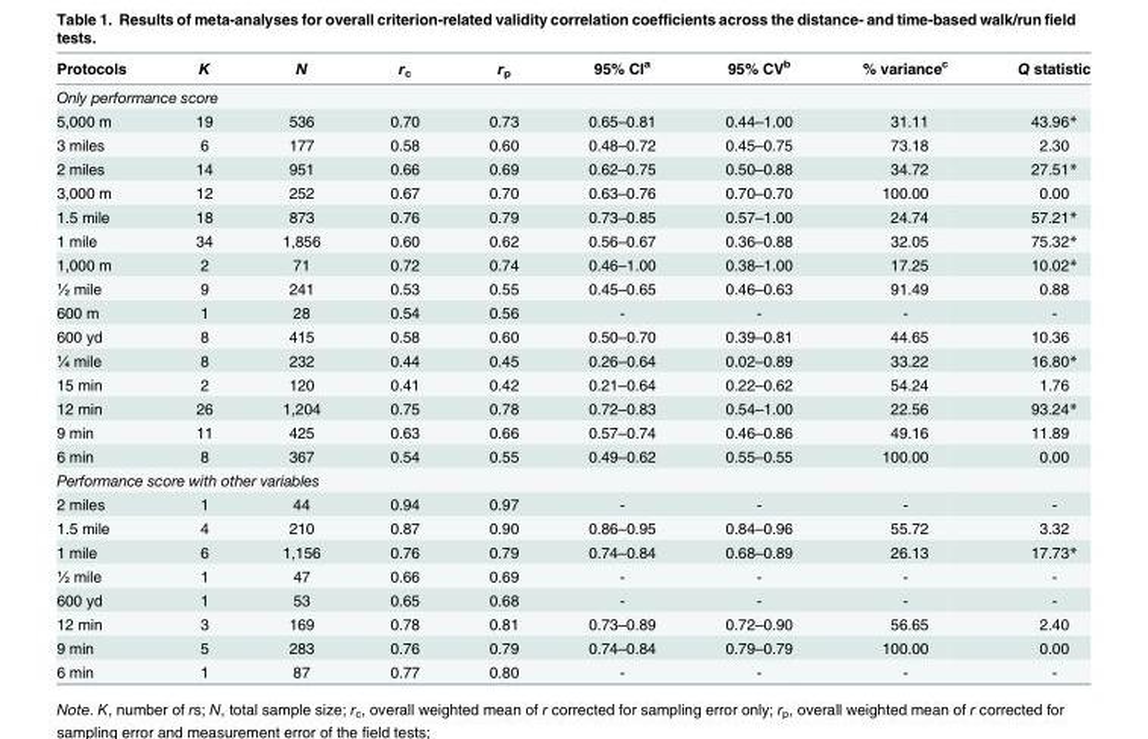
<table><thead><tr><td>Protocols</td><td>K</td><td>N</td><td>r<sub>c</sub></td><td>r<sub>p</sub></td><td>95% CI<sup>a</sup></td><td>95% CV<sup>b</sup></td><td>% variance<sup>c</sup></td><td>Q statistic</td></tr></thead><tbody><tr><td colspan="9">Only performance score</td></tr><tr><td>5,000 m</td><td>19</td><td>536</td><td>0.70</td><td>0.73</td><td>0.65–0.81</td><td>0.44–1.00</td><td>31.11</td><td>43.96*</td></tr><tr><td>3 miles</td><td>6</td><td>177</td><td>0.58</td><td>0.60</td><td>0.48–0.72</td><td>0.45–0.75</td><td>73.18</td><td>2.30</td></tr><tr><td>2 miles</td><td>14</td><td>951</td><td>0.66</td><td>0.69</td><td>0.62–0.75</td><td>0.50–0.88</td><td>34.72</td><td>27.51*</td></tr><tr><td>3,000 m</td><td>12</td><td>252</td><td>0.67</td><td>0.70</td><td>0.63–0.76</td><td>0.70–0.70</td><td>100.00</td><td>0.00</td></tr><tr><td>1.5 mile</td><td>18</td><td>873</td><td>0.76</td><td>0.79</td><td>0.73–0.85</td><td>0.57–1.00</td><td>24.74</td><td>57.21*</td></tr><tr><td>1 mile</td><td>34</td><td>1,856</td><td>0.60</td><td>0.62</td><td>0.56–0.67</td><td>0.36–0.88</td><td>32.05</td><td>75.32*</td></tr><tr><td>1,000 m</td><td>2</td><td>71</td><td>0.72</td><td>0.74</td><td>0.46–1.00</td><td>0.38–1.00</td><td>17.25</td><td>10.02*</td></tr><tr><td>½ mile</td><td>9</td><td>241</td><td>0.53</td><td>0.55</td><td>0.45–0.65</td><td>0.46–0.63</td><td>91.49</td><td>0.88</td></tr><tr><td>600 m</td><td>1</td><td>28</td><td>0.54</td><td>0.56</td><td>-</td><td>-</td><td>-</td><td>-</td></tr><tr><td>600 yd</td><td>8</td><td>415</td><td>0.58</td><td>0.60</td><td>0.50–0.70</td><td>0.39–0.81</td><td>44.65</td><td>10.36</td></tr><tr><td>¼ mile</td><td>8</td><td>232</td><td>0.44</td><td>0.45</td><td>0.26–0.64</td><td>0.02–0.89</td><td>33.22</td><td>16.80*</td></tr><tr><td>15 min</td><td>2</td><td>120</td><td>0.41</td><td>0.42</td><td>0.21–0.64</td><td>0.22–0.62</td><td>54.24</td><td>1.76</td></tr><tr><td>12 min</td><td>26</td><td>1,204</td><td>0.75</td><td>0.78</td><td>0.72–0.83</td><td>0.54–1.00</td><td>22.56</td><td>93.24*</td></tr><tr><td>9 min</td><td>11</td><td>425</td><td>0.63</td><td>0.66</td><td>0.57–0.74</td><td>0.46–0.86</td><td>49.16</td><td>11.89</td></tr><tr><td>6 min</td><td>8</td><td>367</td><td>0.54</td><td>0.55</td><td>0.49–0.62</td><td>0.55–0.55</td><td>100.00</td><td>0.00</td></tr><tr><td colspan="9">Performance score with other variables</td></tr><tr><td>2 miles</td><td>1</td><td>44</td><td>0.94</td><td>0.97</td><td>-</td><td>-</td><td>-</td><td>-</td></tr><tr><td>1.5 mile</td><td>4</td><td>210</td><td>0.87</td><td>0.90</td><td>0.86–0.95</td><td>0.84–0.96</td><td>55.72</td><td>3.32</td></tr><tr><td>1 mile</td><td>6</td><td>1,156</td><td>0.76</td><td>0.79</td><td>0.74–0.84</td><td>0.68–0.89</td><td>26.13</td><td>17.73*</td></tr><tr><td>½ mile</td><td>1</td><td>47</td><td>0.66</td><td>0.69</td><td>-</td><td>-</td><td>-</td><td>-</td></tr><tr><td>600 yd</td><td>1</td><td>53</td><td>0.65</td><td>0.68</td><td>-</td><td>-</td><td>-</td><td>-</td></tr><tr><td>12 min</td><td>3</td><td>169</td><td>0.78</td><td>0.81</td><td>0.73–0.89</td><td>0.72–0.90</td><td>56.65</td><td>2.40</td></tr><tr><td>9 min</td><td>5</td><td>283</td><td>0.76</td><td>0.79</td><td>0.74–0.84</td><td>0.79–0.79</td><td>100.00</td><td>0.00</td></tr><tr><td>6 min</td><td>1</td><td>87</td><td>0.77</td><td>0.80</td><td>-</td><td>-</td><td>-</td><td>-</td></tr></tbody></table>